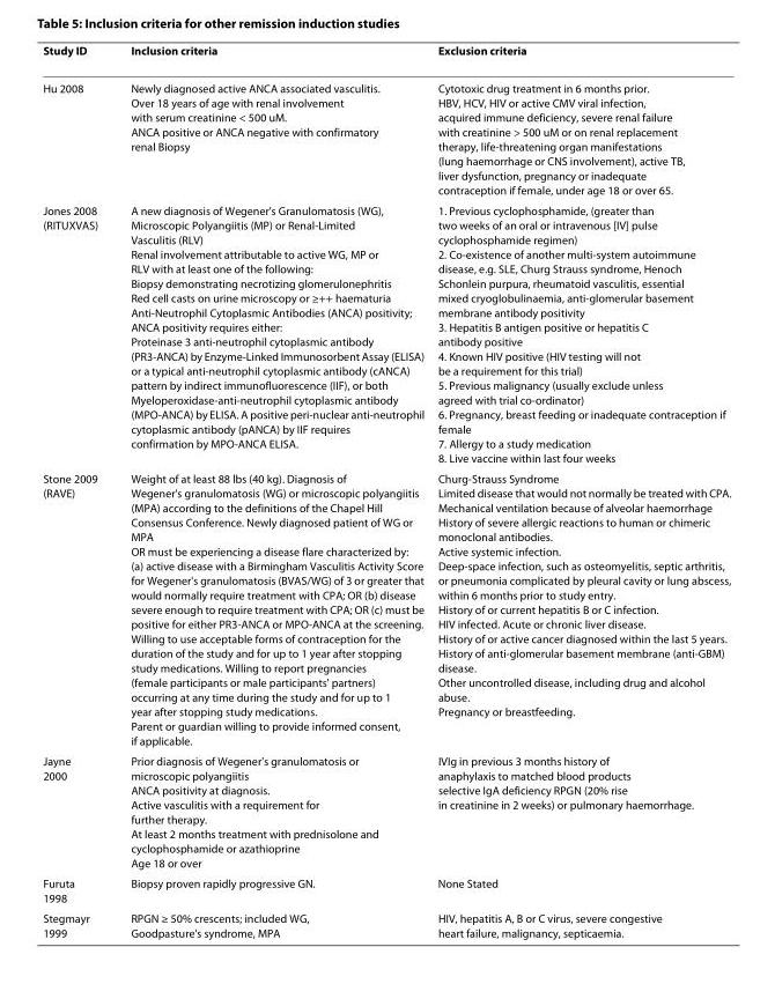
<table><thead><tr><td>Study ID</td><td>Inclusion criteria</td><td>Exclusion criteria</td></tr></thead><tbody><tr><td>Hu 2008</td><td>Newly diagnosed active ANCA associated vasculitis. Over 18 years of age with renal involvement with serum creatinine &lt; 500 uM. ANCA positive or ANCA negative with confirmatory renal Biopsy</td><td>Cytotoxic drug treatment in 6 months prior. HBV, HCV, HIV or active CMV viral infection, acquired immune deficiency, severe renal failure with creatinine &gt; 500 uM or on renal replacement therapy, life-threatening organ manifestations (lung haemorrhage or CNS involvement), active TB, liver dysfunction, pregnancy or inadequate contraception if female, under age 18 or over 65.</td></tr><tr><td>Jones 2008 (RITUXVAS)</td><td>A new diagnosis of Wegener&#x27;s Granulomatosis (WG), Microscopic Polyangiitis (MP) or Renal-Limited Vasculitis (RLV) Renal involvement attributable to active WG, MP or RLV with at least one of the following: Biopsy demonstrating necrotizing glomerulonephritis Red cell casts on urine microscopy or ≥++ haematuria Anti-Neutrophil Cytoplasmic Antibodies (ANCA) positivity; ANCA positivity requires either: Proteinase 3 anti-neutrophil cytoplasmic antibody (PR3-ANCA) by Enzyme-Linked Immunosorbent Assay (ELISA) or a typical anti-neutrophil cytoplasmic antibody (cANCA) pattern by indirect immunofluorescence (IIF), or both Myeloperoxidase-anti-neutrophil cytoplasmic antibody (MPO-ANCA) by ELISA. A positive peri-nuclear anti-neutrophil cytoplasmic antibody (pANCA) by IIF requires confirmation by MPO-ANCA ELISA.</td><td>1. Previous cyclophosphamide, (greater than two weeks of an oral or intravenous [IV] pulse cyclophosphamide regimen) 2. Co-existence of another multi-system autoimmune disease, e.g. SLE, Churg Strauss syndrome, Henoch Schonlein purpura, rheumatoid vasculitis, essential mixed cryoglobulinaemia, anti-glomerular basement membrane antibody positivity 3. Hepatitis B antigen positive or hepatitis C antibody positive 4. Known HIV positive (HIV testing will not be a requirement for this trial) 5. Previous malignancy (usually exclude unless agreed with trial co-ordinator) 6. Pregnancy, breast feeding or inadequate contraception if female 7. Allergy to a study medication 8. Live vaccine within last four weeks</td></tr><tr><td>Stone 2009 (RAVE)</td><td>Weight of at least 88 lbs (40 kg). Diagnosis of Wegener&#x27;s granulomatosis (WG) or microscopic polyangiitis (MPA) according to the definitions of the Chapel Hill Consensus Conference. Newly diagnosed patient of WG or MPA OR must be experiencing a disease flare characterized by: (a) active disease with a Birmingham Vasculitis Activity Score for Wegener&#x27;s granulomatosis (BVAS/WG) of 3 or greater that would normally require treatment with CPA; OR (b) disease severe enough to require treatment with CPA; OR (c) must be positive for either PR3-ANCA or MPO-ANCA at the screening. Willing to use acceptable forms of contraception for the duration of the study and for up to 1 year after stopping study medications. Willing to report pregnancies (female participants or male participants&#x27; partners) occurring at any time during the study and for up to 1 year after stopping study medications. Parent or guardian willing to provide informed consent, if applicable.</td><td>Churg-Strauss Syndrome Limited disease that would not normally be treated with CPA. Mechanical ventilation because of alveolar haemorrhage History of severe allergic reactions to human or chimeric monoclonal antibodies. Active systemic infection. Deep-space infection, such as osteomyelitis, septic arthritis, or pneumonia complicated by pleural cavity or lung abscess, within 6 months prior to study entry. History of or current hepatitis B or C infection. HIV infected. Acute or chronic liver disease. History of or active cancer diagnosed within the last 5 years. History of anti-glomerular basement membrane (anti-GBM) disease. Other uncontrolled disease, including drug and alcohol abuse. Pregnancy or breastfeeding.</td></tr><tr><td>Jayne 2000</td><td>Prior diagnosis of Wegener&#x27;s granulomatosis or microscopic polyangiitis ANCA positivity at diagnosis. Active vasculitis with a requirement for further therapy. At least 2 months treatment with prednisolone and cyclophosphamide or azathioprine Age 18 or over</td><td>IVIg in previous 3 months history of anaphylaxis to matched blood products selective IgA deficiency RPGN (20% rise in creatinine in 2 weeks) or pulmonary haemorrhage.</td></tr><tr><td>Furuta 1998</td><td>Biopsy proven rapidly progressive GN.</td><td>None Stated</td></tr><tr><td>Stegmayr 1999</td><td>RPGN ≥ 50% crescents; included WG, Goodpasture&#x27;s syndrome, MPA</td><td>HIV, hepatitis A, B or C virus, severe congestive heart failure, malignancy, septicaemia.</td></tr></tbody></table>